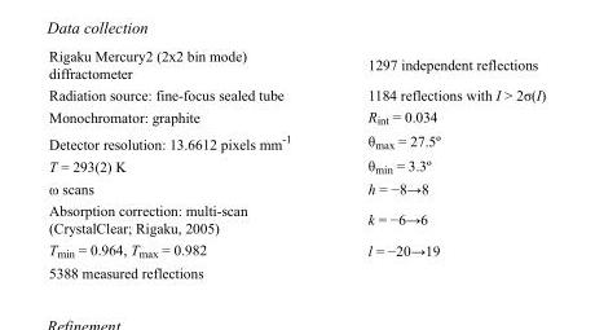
<table><tbody><tr><td>Rigaku Mercury2 (2x2 bin mode) diffractometer</td><td>1297 independent reflections</td></tr><tr><td>Radiation source: fine-focus sealed tube</td><td>1184 reflections with I &gt; 2σ(I)</td></tr><tr><td>Monochromator: graphite</td><td>R<sub>int</sub> = 0.034</td></tr><tr><td>Detector resolution: 13.6612 pixels mm<sup>-1</sup></td><td>θ<sub>max</sub> = 27.5º</td></tr><tr><td>T = 293(2) K</td><td>θ<sub>min</sub> = 3.3º</td></tr><tr><td>ω scans</td><td>h = −8→8</td></tr><tr><td>Absorption correction: multi-scan (CrystalClear; Rigaku, 2005)</td><td>k = −6→6</td></tr><tr><td>T<sub>min</sub> = 0.964, T<sub>max</sub> = 0.982</td><td>l = −20→19</td></tr><tr><td>5388 measured reflections</td><td></td></tr></tbody></table>